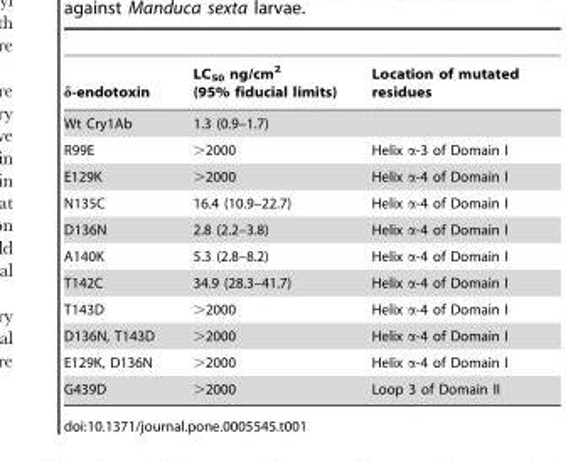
<table><thead><tr><td>δ-endotoxin</td><td>LC50 ng/cm2 (95% fiducial limits)</td><td>Location of mutated residues</td></tr></thead><tbody><tr><td>Wt Cry1Ab</td><td>1.3 (0.9–1.7)</td><td></td></tr><tr><td>R99E</td><td>&gt;2000</td><td>Helix α-3 of Domain I</td></tr><tr><td>E129K</td><td>&gt;2000</td><td>Helix α-4 of Domain I</td></tr><tr><td>N135C</td><td>16.4 (10.9–22.7)</td><td>Helix α-4 of Domain I</td></tr><tr><td>D136N</td><td>2.8 (2.2–3.8)</td><td>Helix α-4 of Domain I</td></tr><tr><td>A140K</td><td>5.3 (2.8–8.2)</td><td>Helix α-4 of Domain I</td></tr><tr><td>T142C</td><td>34.9 (28.3–41.7)</td><td>Helix α-4 of Domain I</td></tr><tr><td>T143D</td><td>&gt;2000</td><td>Helix α-4 of Domain I</td></tr><tr><td>D136N, T143D</td><td>&gt;2000</td><td>Helix α-4 of Domain I</td></tr><tr><td>E129K, D136N</td><td>&gt;2000</td><td>Helix α-4 of Domain I</td></tr><tr><td>G439D</td><td>&gt;2000</td><td>Loop 3 of Domain II</td></tr></tbody></table>